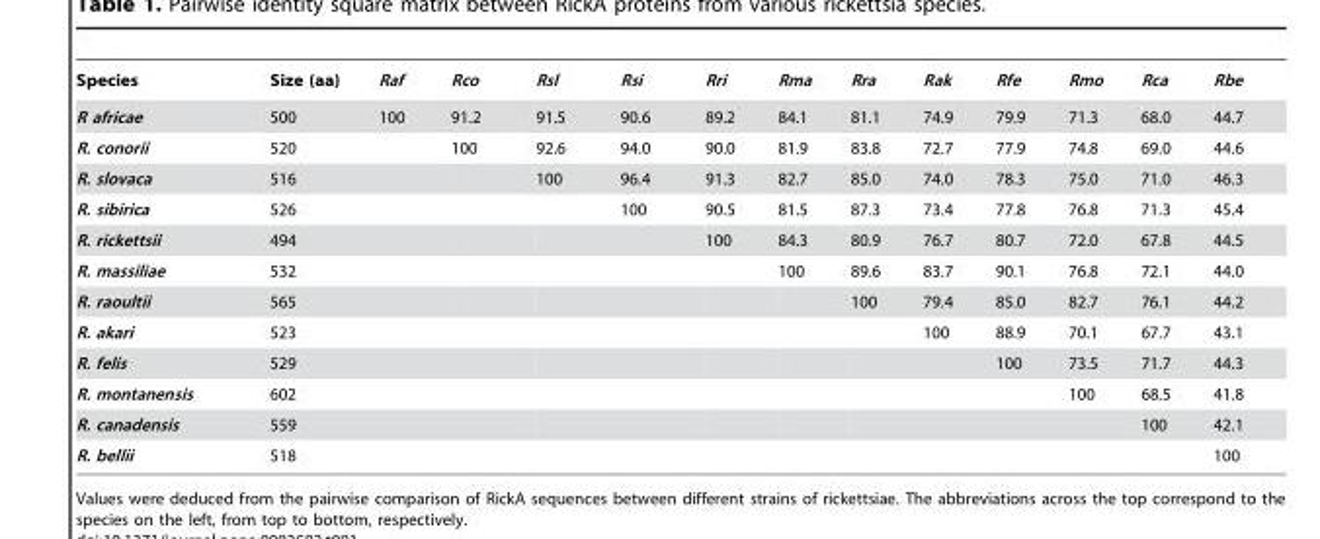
<table><thead><tr><td>Species</td><td>Size (aa)</td><td>Raf</td><td>Rco</td><td>Rsl</td><td>Rsi</td><td>Rri</td><td>Rma</td><td>Rra</td><td>Rak</td><td>Rfe</td><td>Rmo</td><td>Rca</td><td>Rbe</td></tr></thead><tbody><tr><td>R africae</td><td>500</td><td>100</td><td>91.2</td><td>91.5</td><td>90.6</td><td>89.2</td><td>84.1</td><td>81.1</td><td>74.9</td><td>79.9</td><td>71.3</td><td>68.0</td><td>44.7</td></tr><tr><td>R. conorii</td><td>520</td><td></td><td>100</td><td>92.6</td><td>94.0</td><td>90.0</td><td>81.9</td><td>83.8</td><td>72.7</td><td>77.9</td><td>74.8</td><td>69.0</td><td>44.6</td></tr><tr><td>R. slovaca</td><td>516</td><td></td><td></td><td>100</td><td>96.4</td><td>91.3</td><td>82.7</td><td>85.0</td><td>74.0</td><td>78.3</td><td>75.0</td><td>71.0</td><td>46.3</td></tr><tr><td>R. sibirica</td><td>526</td><td></td><td></td><td></td><td>100</td><td>90.5</td><td>81.5</td><td>87.3</td><td>73.4</td><td>77.8</td><td>76.8</td><td>71.3</td><td>45.4</td></tr><tr><td>R. rickettsii</td><td>494</td><td></td><td></td><td></td><td></td><td>100</td><td>84.3</td><td>80.9</td><td>76.7</td><td>80.7</td><td>72.0</td><td>67.8</td><td>44.5</td></tr><tr><td>R. massiliae</td><td>532</td><td></td><td></td><td></td><td></td><td></td><td>100</td><td>89.6</td><td>83.7</td><td>90.1</td><td>76.8</td><td>72.1</td><td>44.0</td></tr><tr><td>R. raoultii</td><td>565</td><td></td><td></td><td></td><td></td><td></td><td></td><td>100</td><td>79.4</td><td>85.0</td><td>82.7</td><td>76.1</td><td>44.2</td></tr><tr><td>R. akari</td><td>523</td><td></td><td></td><td></td><td></td><td></td><td></td><td></td><td>100</td><td>88.9</td><td>70.1</td><td>67.7</td><td>43.1</td></tr><tr><td>R. felis</td><td>529</td><td></td><td></td><td></td><td></td><td></td><td></td><td></td><td></td><td>100</td><td>73.5</td><td>71.7</td><td>44.3</td></tr><tr><td>R. montanensis</td><td>602</td><td></td><td></td><td></td><td></td><td></td><td></td><td></td><td></td><td></td><td>100</td><td>68.5</td><td>41.8</td></tr><tr><td>R. canadensis</td><td>559</td><td></td><td></td><td></td><td></td><td></td><td></td><td></td><td></td><td></td><td></td><td>100</td><td>42.1</td></tr><tr><td>R. bellii</td><td>518</td><td></td><td></td><td></td><td></td><td></td><td></td><td></td><td></td><td></td><td></td><td></td><td>100</td></tr></tbody></table>